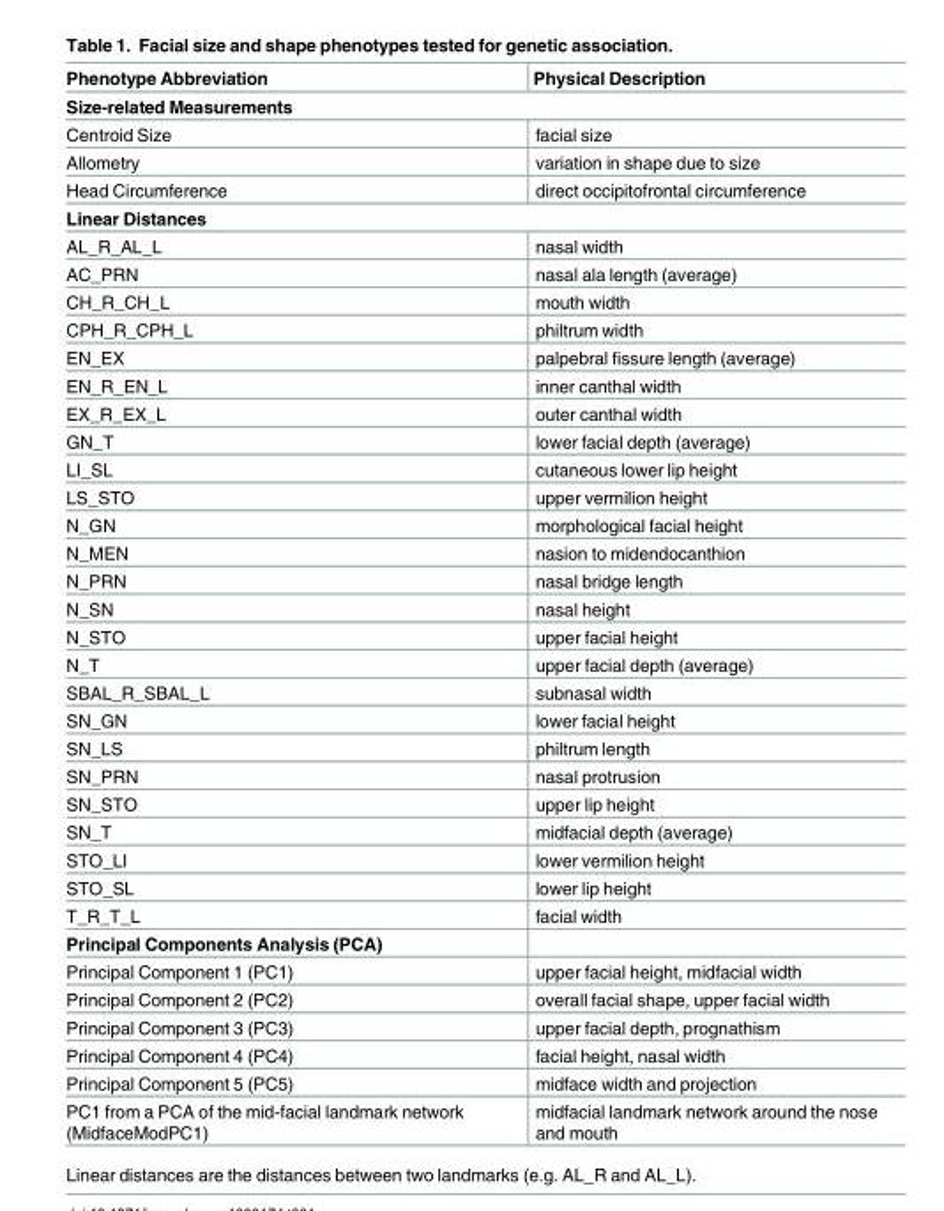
<table><thead><tr><td>Phenotype Abbreviation</td><td>Physical Description</td></tr></thead><tbody><tr><td colspan="2">Size-related Measurements</td></tr><tr><td>Centroid Size</td><td>facial size</td></tr><tr><td>Allometry</td><td>variation in shape due to size</td></tr><tr><td>Head Circumference</td><td>direct occipitofrontal circumference</td></tr><tr><td colspan="2">Linear Distances</td></tr><tr><td>AL_R_AL_L</td><td>nasal width</td></tr><tr><td>AC_PRN</td><td>nasal ala length (average)</td></tr><tr><td>CH_R_CH_L</td><td>mouth width</td></tr><tr><td>CPH_R_CPH_L</td><td>philtrum width</td></tr><tr><td>EN_EX</td><td>palpebral fissure length (average)</td></tr><tr><td>EN_R_EN_L</td><td>inner canthal width</td></tr><tr><td>EX_R_EX_L</td><td>outer canthal width</td></tr><tr><td>GN_T</td><td>lower facial depth (average)</td></tr><tr><td>LI_SL</td><td>cutaneous lower lip height</td></tr><tr><td>LS_STO</td><td>upper vermilion height</td></tr><tr><td>N_GN</td><td>morphological facial height</td></tr><tr><td>N_MEN</td><td>nasion to midendocanthion</td></tr><tr><td>N_PRN</td><td>nasal bridge length</td></tr><tr><td>N_SN</td><td>nasal height</td></tr><tr><td>N_STO</td><td>upper facial height</td></tr><tr><td>N_T</td><td>upper facial depth (average)</td></tr><tr><td>SBAL_R_SBAL_L</td><td>subnasal width</td></tr><tr><td>SN_GN</td><td>lower facial height</td></tr><tr><td>SN_LS</td><td>philtrum length</td></tr><tr><td>SN_PRN</td><td>nasal protrusion</td></tr><tr><td>SN_STO</td><td>upper lip height</td></tr><tr><td>SN_T</td><td>midfacial depth (average)</td></tr><tr><td>STO_LI</td><td>lower vermilion height</td></tr><tr><td>STO_SL</td><td>lower lip height</td></tr><tr><td>T_R_T_L</td><td>facial width</td></tr><tr><td colspan="2">Principal Components Analysis (PCA)</td></tr><tr><td>Principal Component 1 (PC1)</td><td>upper facial height, midfacial width</td></tr><tr><td>Principal Component 2 (PC2)</td><td>overall facial shape, upper facial width</td></tr><tr><td>Principal Component 3 (PC3)</td><td>upper facial depth, prognathism</td></tr><tr><td>Principal Component 4 (PC4)</td><td>facial height, nasal width</td></tr><tr><td>Principal Component 5 (PC5)</td><td>midface width and projection</td></tr><tr><td>PC1 from a PCA of the mid-facial landmark network (MidfaceModPC1)</td><td>midfacial landmark network around the nose and mouth</td></tr></tbody></table>